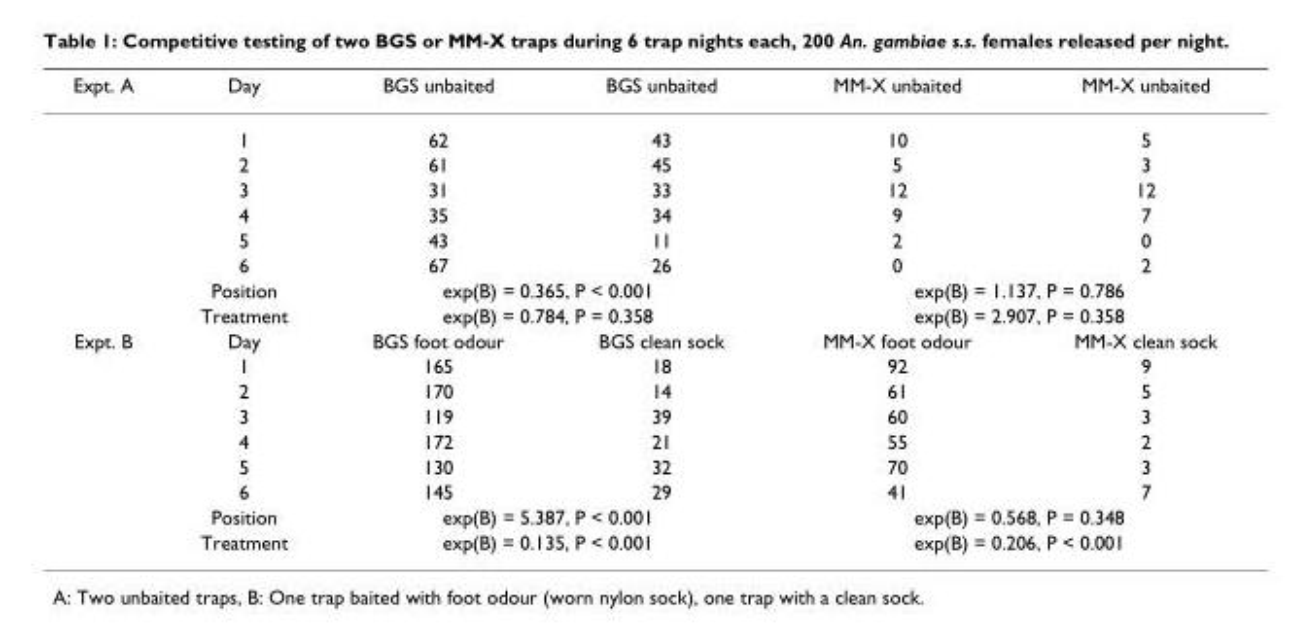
<table><thead><tr><td>Expt. A</td><td>Day</td><td>BGS unbaited</td><td>BGS unbaited</td><td>MM-X unbaited</td><td>MM-X unbaited</td></tr></thead><tbody><tr><td></td><td>1</td><td>62</td><td>43</td><td>10</td><td>5</td></tr><tr><td></td><td>2</td><td>61</td><td>45</td><td>5</td><td>3</td></tr><tr><td></td><td>3</td><td>31</td><td>33</td><td>12</td><td>12</td></tr><tr><td></td><td>4</td><td>35</td><td>34</td><td>9</td><td>7</td></tr><tr><td></td><td>5</td><td>43</td><td>11</td><td>2</td><td>0</td></tr><tr><td></td><td>6</td><td>67</td><td>26</td><td>0</td><td>2</td></tr><tr><td></td><td>Position</td><td colspan="2">exp(B) = 0.365, P &lt; 0.001</td><td colspan="2">exp(B) = 1.137, P = 0.786</td></tr><tr><td></td><td>Treatment</td><td colspan="2">exp(B) = 0.784, P = 0.358</td><td colspan="2">exp(B) = 2.907, P = 0.358</td></tr><tr><td rowspan="9">Expt. B</td><td>Day</td><td>BGS foot odour</td><td>BGS clean sock</td><td>MM-X foot odour</td><td>MM-X clean sock</td></tr><tr><td>1</td><td>165</td><td>18</td><td>92</td><td>9</td></tr><tr><td>2</td><td>170</td><td>14</td><td>61</td><td>5</td></tr><tr><td>3</td><td>119</td><td>39</td><td>60</td><td>3</td></tr><tr><td>4</td><td>172</td><td>21</td><td>55</td><td>2</td></tr><tr><td>5</td><td>130</td><td>32</td><td>70</td><td>3</td></tr><tr><td>6</td><td>145</td><td>29</td><td>41</td><td>7</td></tr><tr><td>Position</td><td colspan="2">exp(B) = 5.387, P &lt; 0.001</td><td colspan="2">exp(B) = 0.568, P = 0.348</td></tr><tr><td>Treatment</td><td colspan="2">exp(B) = 0.135, P &lt; 0.001</td><td colspan="2">exp(B) = 0.206, P &lt; 0.001</td></tr></tbody></table>